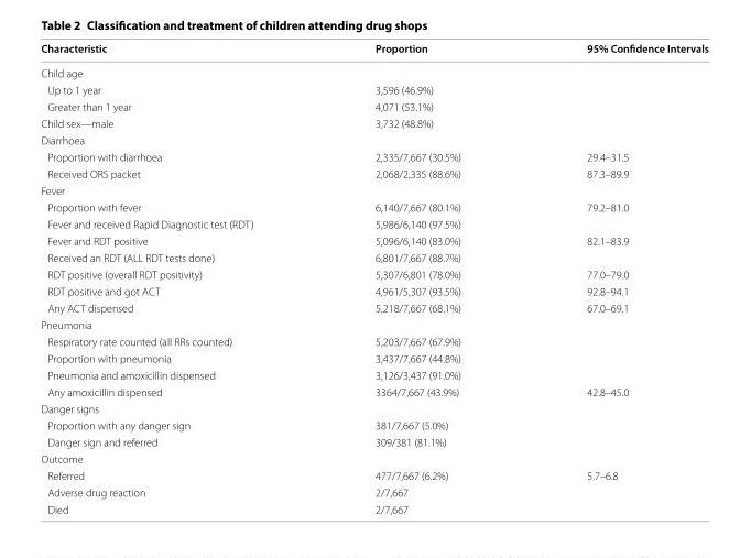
<table><thead><tr><td>Characteristic</td><td>Proportion</td><td>95% Confidence Intervals</td></tr></thead><tbody><tr><td colspan="3">Child age</td></tr><tr><td>Up to 1 year</td><td>3,596 (46.9%)</td><td></td></tr><tr><td>Greater than 1 year</td><td>4,071 (53.1%)</td><td></td></tr><tr><td>Child sex—male</td><td>3,732 (48.8%)</td><td></td></tr><tr><td colspan="3">Diarrhoea</td></tr><tr><td>Proportion with diarrhoea</td><td>2,335/7,667 (30.5%)</td><td>29.4–31.5</td></tr><tr><td>Received ORS packet</td><td>2,068/2,335 (88.6%)</td><td>87.3–89.9</td></tr><tr><td colspan="3">Fever</td></tr><tr><td>Proportion with fever</td><td>6,140/7,667 (80.1%)</td><td>79.2–81.0</td></tr><tr><td>Fever and received Rapid Diagnostic test (RDT)</td><td>5,986/6,140 (97.5%)</td><td></td></tr><tr><td>Fever and RDT positive</td><td>5,096/6,140 (83.0%)</td><td>82.1–83.9</td></tr><tr><td>Received an RDT (ALL RDT tests done)</td><td>6,801/7,667 (88.7%)</td><td></td></tr><tr><td>RDT positive (overall RDT positivity)</td><td>5,307/6,801 (78.0%)</td><td>77.0–79.0</td></tr><tr><td>RDT positive and got ACT</td><td>4,961/5,307 (93.5%)</td><td>92.8–94.1</td></tr><tr><td>Any ACT dispensed</td><td>5,218/7,667 (68.1%)</td><td>67.0–69.1</td></tr><tr><td colspan="3">Pneumonia</td></tr><tr><td>Respiratory rate counted (all RRs counted)</td><td>5,203/7,667 (67.9%)</td><td></td></tr><tr><td>Proportion with pneumonia</td><td>3,437/7,667 (44.8%)</td><td></td></tr><tr><td>Pneumonia and amoxicillin dispensed</td><td>3,126/3,437 (91.0%)</td><td></td></tr><tr><td>Any amoxicillin dispensed</td><td>3364/7,667 (43.9%)</td><td>42.8–45.0</td></tr><tr><td colspan="3">Danger signs</td></tr><tr><td>Proportion with any danger sign</td><td>381/7,667 (5.0%)</td><td></td></tr><tr><td>Danger sign and referred</td><td>309/381 (81.1%)</td><td></td></tr><tr><td colspan="3">Outcome</td></tr><tr><td>Referred</td><td>477/7,667 (6.2%)</td><td>5.7–6.8</td></tr><tr><td>Adverse drug reaction</td><td>2/7,667</td><td></td></tr><tr><td>Died</td><td>2/7,667</td><td></td></tr></tbody></table>